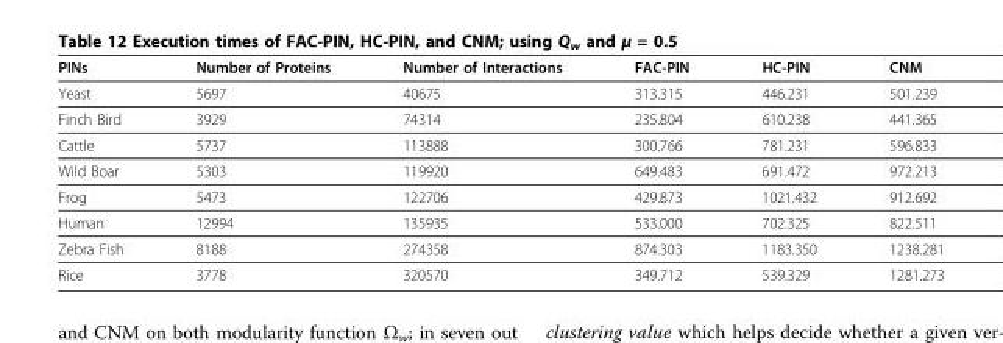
<table><thead><tr><td>PINs</td><td>Number of Proteins</td><td>Number of Interactions</td><td>FAC-PIN</td><td>HC-PIN</td><td>CNM</td></tr></thead><tbody><tr><td>Yeast</td><td>5697</td><td>40675</td><td>313.315</td><td>446.231</td><td>501.239</td></tr><tr><td>Finch Bird</td><td>3929</td><td>74314</td><td>235.804</td><td>610.238</td><td>441.365</td></tr><tr><td>Cattle</td><td>5737</td><td>113888</td><td>300.766</td><td>781.231</td><td>596.833</td></tr><tr><td>Wild Boar</td><td>5303</td><td>119920</td><td>649.483</td><td>691.472</td><td>972.213</td></tr><tr><td>Frog</td><td>5473</td><td>122706</td><td>429.873</td><td>1021.432</td><td>912.692</td></tr><tr><td>Human</td><td>12994</td><td>135935</td><td>533.000</td><td>702.325</td><td>822.511</td></tr><tr><td>Zebra Fish</td><td>8188</td><td>274358</td><td>874.303</td><td>1183.350</td><td>1238.281</td></tr><tr><td>Rice</td><td>3778</td><td>320570</td><td>349.712</td><td>539.329</td><td>1281.273</td></tr></tbody></table>